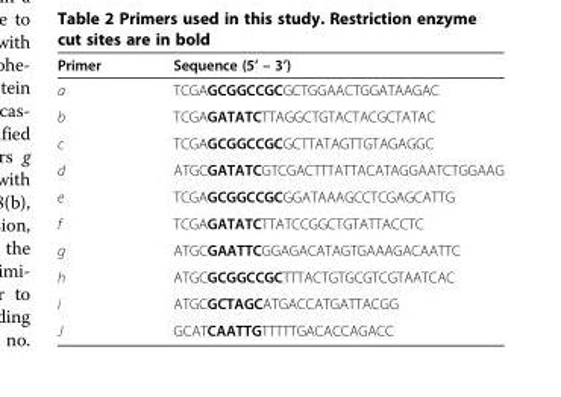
<table><thead><tr><td>Primer</td><td>Sequence (5’ – 3’)</td></tr></thead><tbody><tr><td>a</td><td>TCGAGCGGCCGCGCTGGAACTGGATAAGAC</td></tr><tr><td>b</td><td>TCGAGATATCTTAGGCTGTACTACGCTATAC</td></tr><tr><td>c</td><td>TCGAGCGGCCGCGCTTATAGTTGTAGAGGC</td></tr><tr><td>d</td><td>ATGCGATATCGTCGACTTTATTACATAGGAATCTGGAAG</td></tr><tr><td>e</td><td>TCGAGCGGCCGCGGATAAAGCCTCGAGCATTG</td></tr><tr><td>f</td><td>TCGAGATATCTTATCCGGCTGTATTACCTC</td></tr><tr><td>g</td><td>ATGCGAATTCGGAGACATAGTGAAAGACAATTC</td></tr><tr><td>h</td><td>ATGCGCGGCCGCTTTACTGTGCGTCGTAATCAC</td></tr><tr><td>i</td><td>ATGCGCTAGCATGACCATGATTACGG</td></tr><tr><td>J</td><td>GCATCAATTGTTTTTGACACCAGACC</td></tr></tbody></table>